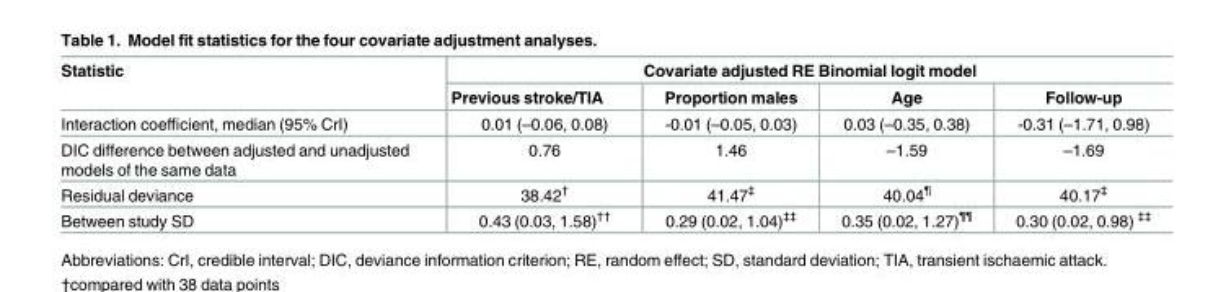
<table><thead><tr><td rowspan="2">Statistic</td><td colspan="4">Covariate adjusted RE Binomial logit model</td></tr><tr><td>Previous stroke/TIA</td><td>Proportion males</td><td>Age</td><td>Follow-up</td></tr></thead><tbody><tr><td>Interaction coefficient, median (95% CrI)</td><td>0.01 (–0.06, 0.08)</td><td>-0.01 (–0.05, 0.03)</td><td>0.03 (–0.35, 0.38)</td><td>-0.31 (–1.71, 0.98)</td></tr><tr><td>DIC difference between adjusted and unadjusted models of the same data</td><td>0.76</td><td>1.46</td><td>–1.59</td><td>–1.69</td></tr><tr><td>Residual deviance</td><td>38.42<sup>†</sup></td><td>41.47<sup>‡</sup></td><td>40.04<sup>¶</sup></td><td>40.17<sup>‡</sup></td></tr><tr><td>Between study SD</td><td>0.43 (0.03, 1.58)<sup>††</sup></td><td>0.29 (0.02, 1.04)<sup>‡‡</sup></td><td>0.35 (0.02, 1.27)<sup>¶¶</sup></td><td>0.30 (0.02, 0.98) <sup>‡‡</sup></td></tr></tbody></table>